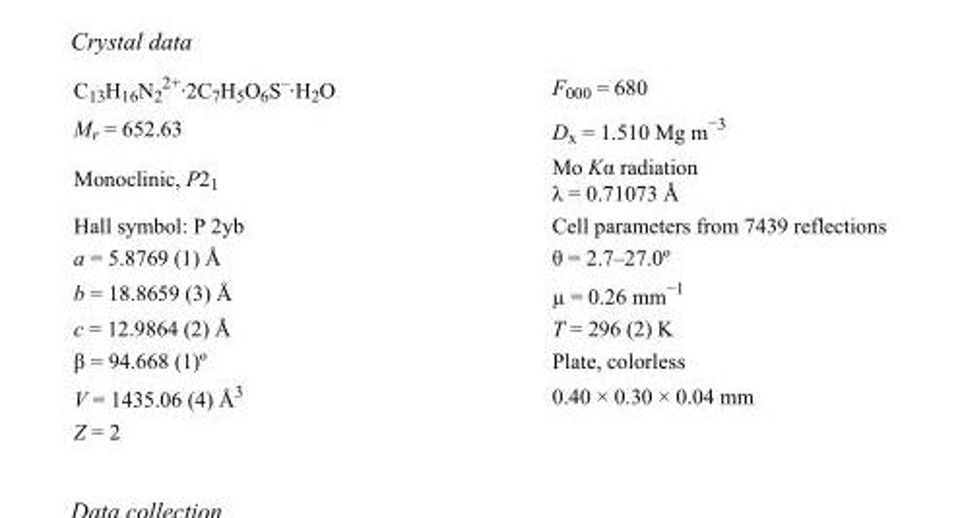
<table><tbody><tr><td>C<sub>13</sub>H<sub>16</sub>N<sub>2</sub> <sup>2+</sup>·2C<sub>7</sub>H<sub>5</sub>O<sub>6</sub>S<sup>–</sup>·H<sub>2</sub>O</td><td>F000 = 680</td></tr><tr><td>M<sub>r</sub> = 652.63</td><td>D<sub>x</sub> = 1.510 Mg m<sup>−3</sup></td></tr><tr><td>Monoclinic, P2<sub>1</sub></td><td>Mo Kα radiation λ = 0.71073 Å</td></tr><tr><td>Hall symbol: P 2yb</td><td>Cell parameters from 7439 reflections</td></tr><tr><td>a = 5.8769 (1) Å</td><td>θ = 2.7–27.0º</td></tr><tr><td>b = 18.8659 (3) Å</td><td>µ = 0.26 mm<sup>−1</sup></td></tr><tr><td>c = 12.9864 (2) Å</td><td>T = 296 (2) K</td></tr><tr><td>β = 94.668 (1)º</td><td>Plate, colorless</td></tr><tr><td>V = 1435.06 (4) Å<sup>3</sup></td><td>0.40 × 0.30 × 0.04 mm</td></tr><tr><td>Z = 2</td><td></td></tr></tbody></table>